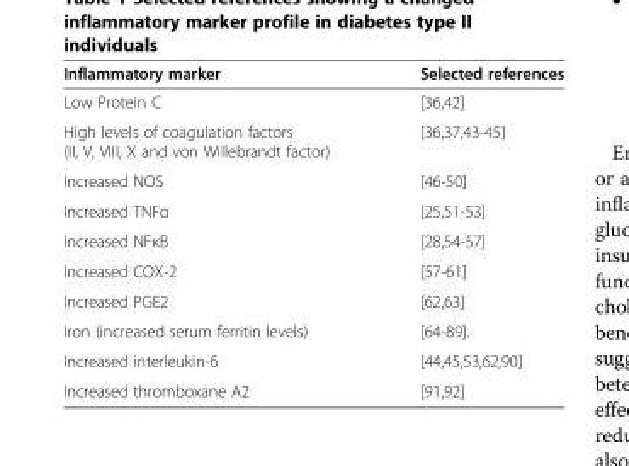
<table><thead><tr><td>Inflammatory marker</td><td>Selected references</td></tr></thead><tbody><tr><td>Low Protein C</td><td>[36,42]</td></tr><tr><td>High levels of coagulation factors (II, V, VIII, X and von Willebrandt factor)</td><td>[36,37,43-45]</td></tr><tr><td>Increased NOS</td><td>[46-50]</td></tr><tr><td>Increased TNFα</td><td>[25,51-53]</td></tr><tr><td>Increased NFκB</td><td>[28,54-57]</td></tr><tr><td>Increased COX-2</td><td>[57-61]</td></tr><tr><td>Increased PGE2</td><td>[62,63]</td></tr><tr><td>Iron (increased serum ferritin levels)</td><td>[64-89].</td></tr><tr><td>Increased interleukin-6</td><td>[44,45,53,62,90]</td></tr><tr><td>Increased thromboxane A2</td><td>[91,92]</td></tr></tbody></table>